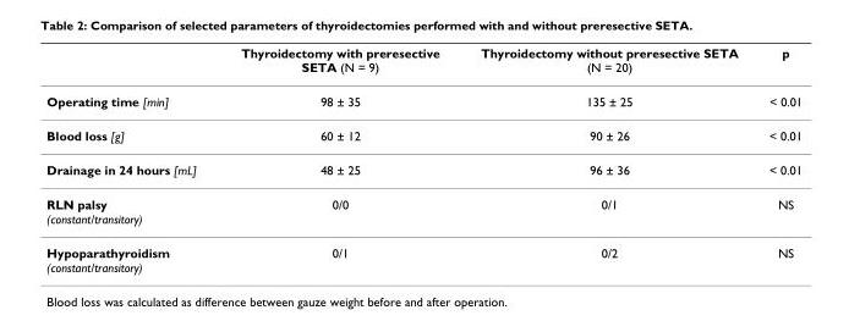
<table><thead><tr><td></td><td>Thyroidectomy with preresective SETA (N = 9)</td><td>Thyroidectomy without preresective SETA (N = 20)</td><td>p</td></tr></thead><tbody><tr><td>Operating time [min]</td><td>98 ± 35</td><td>135 ± 25</td><td>&lt; 0.01</td></tr><tr><td>Blood loss [g]</td><td>60 ± 12</td><td>90 ± 26</td><td>&lt; 0.01</td></tr><tr><td>Drainage in 24 hours [mL]</td><td>48 ± 25</td><td>96 ± 36</td><td>&lt; 0.01</td></tr><tr><td>RLN palsy (constant/transitory)</td><td>0/0</td><td>0/1</td><td>NS</td></tr><tr><td>Hypoparathyroidism (constant/transitory)</td><td>0/1</td><td>0/2</td><td>NS</td></tr></tbody></table>